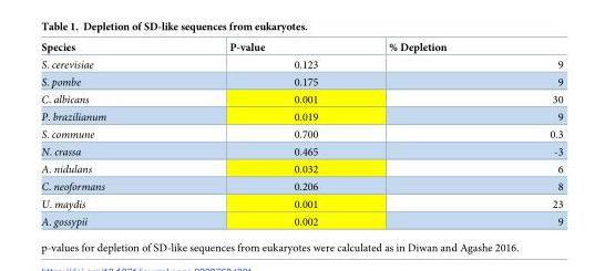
<table><thead><tr><td>Species</td><td>P-value</td><td>% Depletion</td></tr></thead><tbody><tr><td>S. cerevisiae</td><td>0.123</td><td>9</td></tr><tr><td>S. pombe</td><td>0.175</td><td>9</td></tr><tr><td>C. albicans</td><td>0.001</td><td>30</td></tr><tr><td>P. brazilianum</td><td>0.019</td><td>9</td></tr><tr><td>S. commune</td><td>0.700</td><td>0.3</td></tr><tr><td>N. crassa</td><td>0.465</td><td>-3</td></tr><tr><td>A. nidulans</td><td>0.032</td><td>6</td></tr><tr><td>C. neoformans</td><td>0.206</td><td>8</td></tr><tr><td>U. maydis</td><td>0.001</td><td>23</td></tr><tr><td>A. gossypii</td><td>0.002</td><td>9</td></tr></tbody></table>